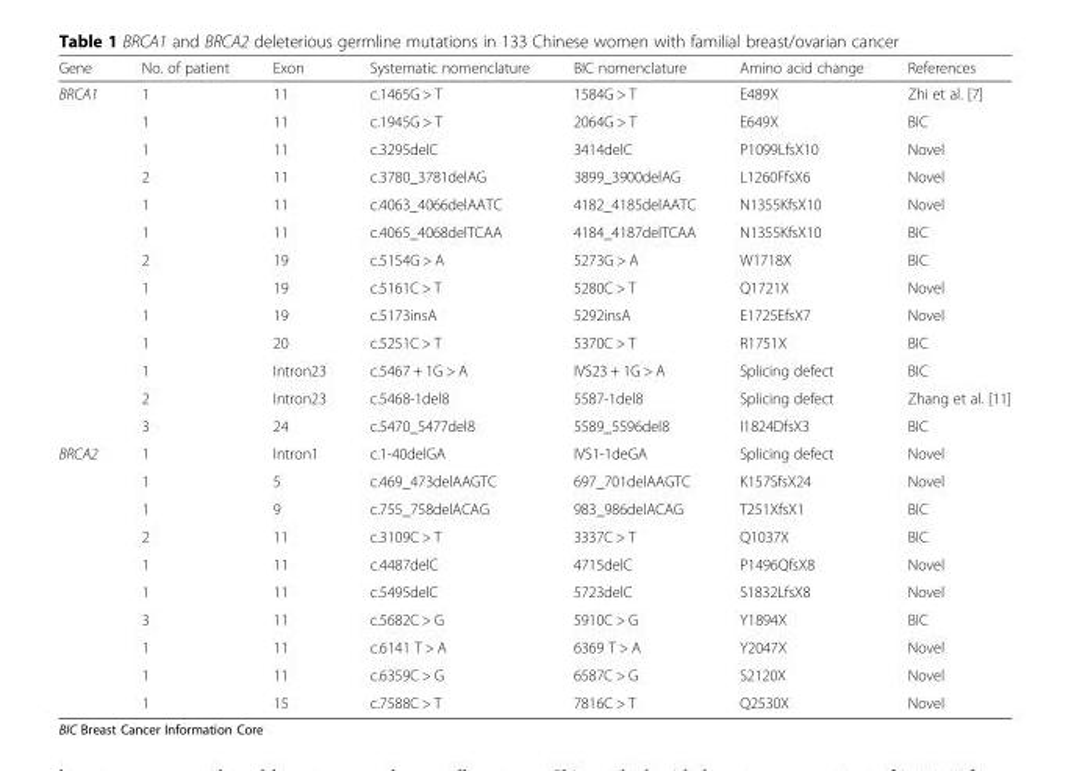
<table><thead><tr><td>Gene</td><td>No. of patient</td><td>Exon</td><td>Systematic nomenclature</td><td>BIC nomenclature</td><td>Amino acid change</td><td>References</td></tr></thead><tbody><tr><td rowspan="13">BRCA1</td><td>1</td><td>11</td><td>c.1465G &gt; T</td><td>1584G &gt; T</td><td>E489X</td><td>Zhi et al. [7]</td></tr><tr><td>1</td><td>11</td><td>c.1945G &gt; T</td><td>2064G &gt; T</td><td>E649X</td><td>BIC</td></tr><tr><td>1</td><td>11</td><td>c.3295delC</td><td>3414delC</td><td>P1099LfsX10</td><td>Novel</td></tr><tr><td>2</td><td>11</td><td>c.3780_3781delAG</td><td>3899_3900delAG</td><td>L1260FfsX6</td><td>Novel</td></tr><tr><td>1</td><td>11</td><td>c.4063_4066delAATC</td><td>4182_4185delAATC</td><td>N1355KfsX10</td><td>Novel</td></tr><tr><td>1</td><td>11</td><td>c.4065_4068delTCAA</td><td>4184_4187delTCAA</td><td>N1355KfsX10</td><td>BIC</td></tr><tr><td>2</td><td>19</td><td>c.5154G &gt; A</td><td>5273G &gt; A</td><td>W1718X</td><td>BIC</td></tr><tr><td>1</td><td>19</td><td>c.5161C &gt; T</td><td>5280C &gt; T</td><td>Q1721X</td><td>Novel</td></tr><tr><td>1</td><td>19</td><td>c.5173insA</td><td>5292insA</td><td>E1725EfsX7</td><td>Novel</td></tr><tr><td>1</td><td>20</td><td>c.5251C &gt; T</td><td>5370C &gt; T</td><td>R1751X</td><td>BIC</td></tr><tr><td>1</td><td>Intron23</td><td>c.5467 + 1G &gt; A</td><td>IVS23 + 1G &gt; A</td><td>Splicing defect</td><td>BIC</td></tr><tr><td>2</td><td>Intron23</td><td>c.5468-1del8</td><td>5587-1del8</td><td>Splicing defect</td><td>Zhang et al. [11]</td></tr><tr><td>3</td><td>24</td><td>c.5470_5477del8</td><td>5589_5596del8</td><td>I1824DfsX3</td><td>BIC</td></tr><tr><td rowspan="10">BRCA2</td><td>1</td><td>Intron1</td><td>c.1-40delGA</td><td>IVS1-1deGA</td><td>Splicing defect</td><td>Novel</td></tr><tr><td>1</td><td>5</td><td>c.469_473delAAGTC</td><td>697_701delAAGTC</td><td>K157SfsX24</td><td>Novel</td></tr><tr><td>1</td><td>9</td><td>c.755_758delACAG</td><td>983_986delACAG</td><td>T251XfsX1</td><td>BIC</td></tr><tr><td>2</td><td>11</td><td>c.3109C &gt; T</td><td>3337C &gt; T</td><td>Q1037X</td><td>BIC</td></tr><tr><td>1</td><td>11</td><td>c.4487delC</td><td>4715delC</td><td>P1496QfsX8</td><td>Novel</td></tr><tr><td>1</td><td>11</td><td>c.5495delC</td><td>5723delC</td><td>S1832LfsX8</td><td>Novel</td></tr><tr><td>3</td><td>11</td><td>c.5682C &gt; G</td><td>5910C &gt; G</td><td>Y1894X</td><td>BIC</td></tr><tr><td>1</td><td>11</td><td>c.6141 T &gt; A</td><td>6369 T &gt; A</td><td>Y2047X</td><td>Novel</td></tr><tr><td>1</td><td>11</td><td>c.6359C &gt; G</td><td>6587C &gt; G</td><td>S2120X</td><td>Novel</td></tr><tr><td>1</td><td>15</td><td>c.7588C &gt; T</td><td>7816C &gt; T</td><td>Q2530X</td><td>Novel</td></tr></tbody></table>